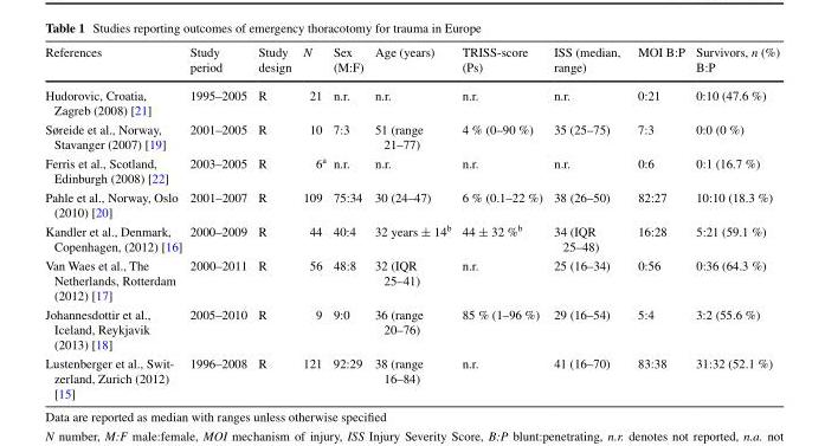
<table><thead><tr><td>References</td><td>Study period</td><td>Study design</td><td>N</td><td>Sex (M:F)</td><td>Age (years)</td><td>TRISS-score (Ps)</td><td>ISS (median, range)</td><td>MOI B:P</td><td>Survivors, n (%) B:P</td></tr></thead><tbody><tr><td>Hudorovic, Croatia, Zagreb (2008) [21]</td><td>1995–2005</td><td>R</td><td>21</td><td>n.r.</td><td>n.r.</td><td>n.r.</td><td>n.r.</td><td>0:21</td><td>0:10 (47.6 %)</td></tr><tr><td>Søreide et al., Norway, Stavanger (2007) [19]</td><td>2001–2005</td><td>R</td><td>10</td><td>7:3</td><td>51 (range 21–77)</td><td>4 % (0–90 %)</td><td>35 (25–75)</td><td>7:3</td><td>0:0 (0 %)</td></tr><tr><td>Ferris et al., Scotland, Edinburgh (2008) [22]</td><td>2003–2005</td><td>R</td><td>6<sup>a</sup></td><td>n.r.</td><td>n.r.</td><td>n.r.</td><td>n.r.</td><td>0:6</td><td>0:1 (16.7 %)</td></tr><tr><td>Pahle et al., Norway, Oslo (2010) [20]</td><td>2001–2007</td><td>R</td><td>109</td><td>75:34</td><td>30 (24–47)</td><td>6 % (0.1–22 %)</td><td>38 (26–50)</td><td>82:27</td><td>10:10 (18.3 %)</td></tr><tr><td>Kandler et al., Denmark, Copenhagen, (2012) [16]</td><td>2000–2009</td><td>R</td><td>44</td><td>40:4</td><td>32 years ± 14<sup>b</sup></td><td>44 ± 32 %<sup>b</sup></td><td>34 (IQR 25–48)</td><td>16:28</td><td>5:21 (59.1 %)</td></tr><tr><td>Van Waes et al., The Netherlands, Rotterdam (2012) [17]</td><td>2000–2011</td><td>R</td><td>56</td><td>48:8</td><td>32 (IQR 25–41)</td><td>n.r.</td><td>25 (16–34)</td><td>0:56</td><td>0:36 (64.3 %)</td></tr><tr><td>Johannesdottir et al., Iceland, Reykjavik (2013) [18]</td><td>2005–2010</td><td>R</td><td>9</td><td>9:0</td><td>36 (range 20–76)</td><td>85 % (1–96 %)</td><td>29 (16–54)</td><td>5:4</td><td>3:2 (55.6 %)</td></tr><tr><td>Lustenberger et al., Swit- zerland, Zurich (2012) [15]</td><td>1996–2008</td><td>R</td><td>121</td><td>92:29</td><td>38 (range 16–84)</td><td>n.r.</td><td>41 (16–70)</td><td>83:38</td><td>31:32 (52.1 %)</td></tr></tbody></table>